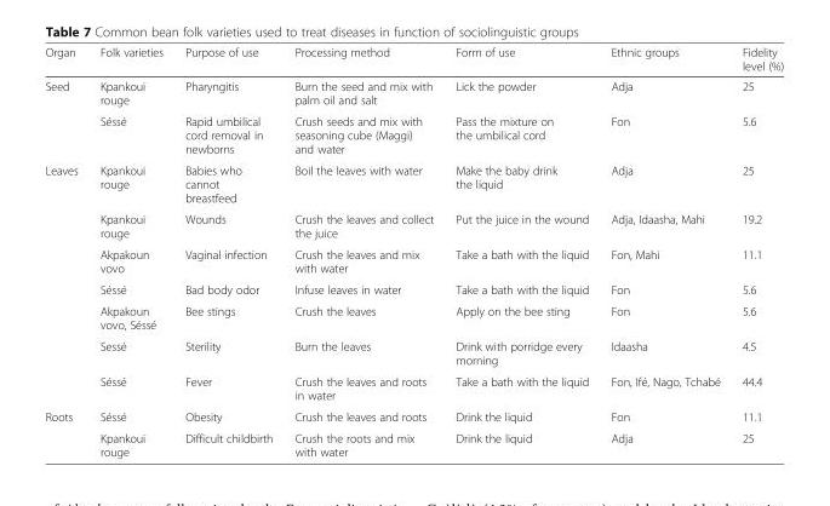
<table><thead><tr><td>Organ</td><td>Folk varieties</td><td>Purpose of use</td><td>Processing method</td><td>Form of use</td><td>Ethnic groups</td><td>Fidelity level (%)</td></tr></thead><tbody><tr><td rowspan="2">Seed</td><td>Kpankoui rouge</td><td>Pharyngitis</td><td>Burn the seed and mix with palm oil and salt</td><td>Lick the powder</td><td>Adja</td><td>25</td></tr><tr><td>Séssé</td><td>Rapid umbilical cord removal in newborns</td><td>Crush seeds and mix with seasoning cube (Maggi) and water</td><td>Pass the mixture on the umbilical cord</td><td>Fon</td><td>5.6</td></tr><tr><td rowspan="7">Leaves</td><td>Kpankoui rouge</td><td>Babies who cannot breastfeed</td><td>Boil the leaves with water</td><td>Make the baby drink the liquid</td><td>Adja</td><td>25</td></tr><tr><td>Kpankoui rouge</td><td>Wounds</td><td>Crush the leaves and collect the juice</td><td>Put the juice in the wound</td><td>Adja, Idaasha, Mahi</td><td>19.2</td></tr><tr><td>Akpakoun vovo</td><td>Vaginal infection</td><td>Crush the leaves and mix with water</td><td>Take a bath with the liquid</td><td>Fon, Mahi</td><td>11.1</td></tr><tr><td>Séssé</td><td>Bad body odor</td><td>Infuse leaves in water</td><td>Take a bath with the liquid</td><td>Fon</td><td>5.6</td></tr><tr><td>Akpakoun vovo, Séssé</td><td>Bee stings</td><td>Crush the leaves</td><td>Apply on the bee sting</td><td>Fon</td><td>5.6</td></tr><tr><td>Sessé</td><td>Sterility</td><td>Burn the leaves</td><td>Drink with porridge every morning</td><td>Idaasha</td><td>4.5</td></tr><tr><td>Séssé</td><td>Fever</td><td>Crush the leaves and roots in water</td><td>Take a bath with the liquid</td><td>Fon, Ifé, Nago, Tchabé</td><td>44.4</td></tr><tr><td rowspan="2">Roots</td><td>Séssé</td><td>Obesity</td><td>Crush the leaves and roots</td><td>Drink the liquid</td><td>Fon</td><td>11.1</td></tr><tr><td>Kpankoui rouge</td><td>Difficult childbirth</td><td>Crush the roots and mix with water</td><td>Drink the liquid</td><td>Adja</td><td>25</td></tr></tbody></table>